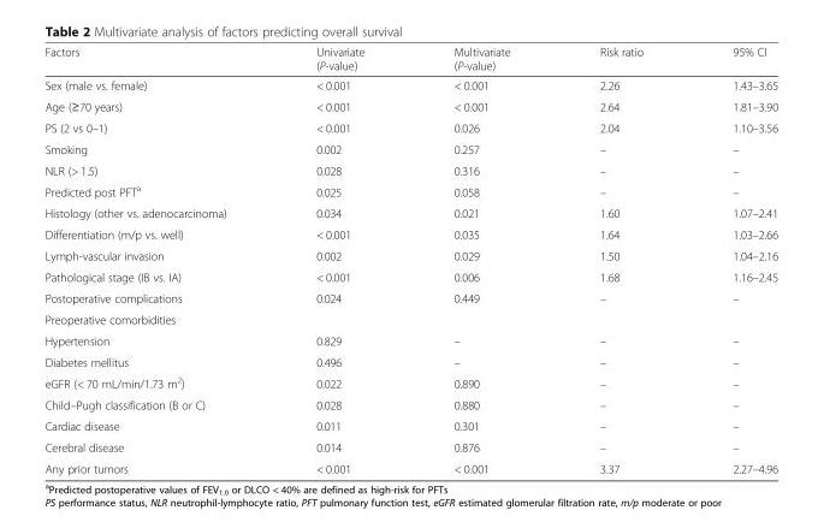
<table><thead><tr><td>Factors</td><td>Univariate (P-value)</td><td>Multivariate (P-value)</td><td>Risk ratio</td><td>95% CI</td></tr></thead><tbody><tr><td>Sex (male vs. female)</td><td>&lt; 0.001</td><td>&lt; 0.001</td><td>2.26</td><td>1.43–3.65</td></tr><tr><td>Age (≥70 years)</td><td>&lt; 0.001</td><td>&lt; 0.001</td><td>2.64</td><td>1.81–3.90</td></tr><tr><td>PS (2 vs 0–1)</td><td>&lt; 0.001</td><td>0.026</td><td>2.04</td><td>1.10–3.56</td></tr><tr><td>Smoking</td><td>0.002</td><td>0.257</td><td>–</td><td>–</td></tr><tr><td>NLR (&gt; 1.5)</td><td>0.028</td><td>0.316</td><td>–</td><td>–</td></tr><tr><td>Predicted post PFT<sup>a</sup></td><td>0.025</td><td>0.058</td><td>–</td><td>–</td></tr><tr><td>Histology (other vs. adenocarcinoma)</td><td>0.034</td><td>0.021</td><td>1.60</td><td>1.07–2.41</td></tr><tr><td>Differentiation (m/p vs. well)</td><td>&lt; 0.001</td><td>0.035</td><td>1.64</td><td>1.03–2.66</td></tr><tr><td>Lymph-vascular invasion</td><td>0.002</td><td>0.029</td><td>1.50</td><td>1.04–2.16</td></tr><tr><td>Pathological stage (IB vs. IA)</td><td>&lt; 0.001</td><td>0.006</td><td>1.68</td><td>1.16–2.45</td></tr><tr><td>Postoperative complications</td><td>0.024</td><td>0.449</td><td>–</td><td>–</td></tr><tr><td colspan="5">Preoperative comorbidities</td></tr><tr><td>Hypertension</td><td>0.829</td><td>–</td><td>–</td><td>–</td></tr><tr><td>Diabetes mellitus</td><td>0.496</td><td>–</td><td>–</td><td>–</td></tr><tr><td>eGFR (&lt; 70 mL/min/1.73 m<sup>2</sup>)</td><td>0.022</td><td>0.890</td><td>–</td><td>–</td></tr><tr><td>Child–Pugh classification (B or C)</td><td>0.028</td><td>0.880</td><td>–</td><td>–</td></tr><tr><td>Cardiac disease</td><td>0.011</td><td>0.301</td><td>–</td><td>–</td></tr><tr><td>Cerebral disease</td><td>0.014</td><td>0.876</td><td>–</td><td>–</td></tr><tr><td>Any prior tumors</td><td>&lt; 0.001</td><td>&lt; 0.001</td><td>3.37</td><td>2.27–4.96</td></tr></tbody></table>